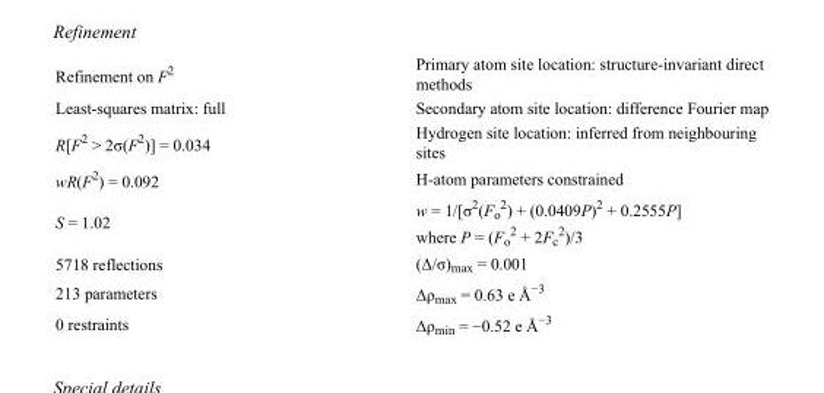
<table><tbody><tr><td>Refinement on F<sup>2</sup></td><td>Primary atom site location: structure-invariant direct methods</td></tr><tr><td>Least-squares matrix: full</td><td>Secondary atom site location: difference Fourier map</td></tr><tr><td>R[F<sup>2</sup> &gt; 2σ(F<sup>2</sup>)] = 0.034</td><td>Hydrogen site location: inferred from neighbouring sites</td></tr><tr><td>wR(F<sup>2</sup>) = 0.092</td><td>H-atom parameters constrained</td></tr><tr><td>S = 1.02</td><td>w = 1/[σ<sup>2</sup>(F<sub>o</sub> <sup>2</sup>) + (0.0409P)<sup>2</sup> + 0.2555P] where P = (F<sub>o</sub> <sup>2</sup> + 2F<sub>c</sub> <sup>2</sup>)/3</td></tr><tr><td>5718 reflections</td><td>(Δ/σ)<sub>max</sub> = 0.001</td></tr><tr><td>213 parameters</td><td>Δρ<sub>max</sub> = 0.63 e Å<sup>−3</sup></td></tr><tr><td>0 restraints</td><td>Δρ<sub>min</sub> = −0.52 e Å<sup>−3</sup></td></tr></tbody></table>